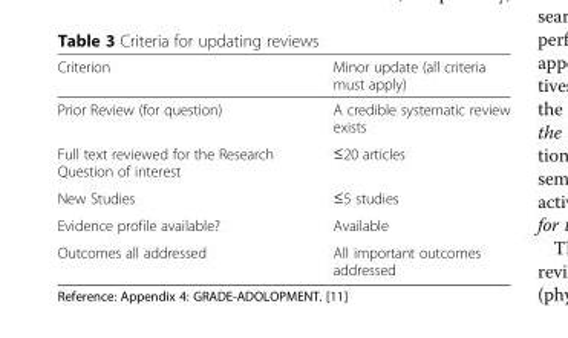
<table><thead><tr><td>Criterion</td><td>Minor update (all criteria must apply)</td></tr></thead><tbody><tr><td>Prior Review (for question)</td><td>A credible systematic review exists</td></tr><tr><td>Full text reviewed for the Research Question of interest</td><td>≤20 articles</td></tr><tr><td>New Studies</td><td>≤5 studies</td></tr><tr><td>Evidence profile available?</td><td>Available</td></tr><tr><td>Outcomes all addressed</td><td>All important outcomes addressed</td></tr></tbody></table>